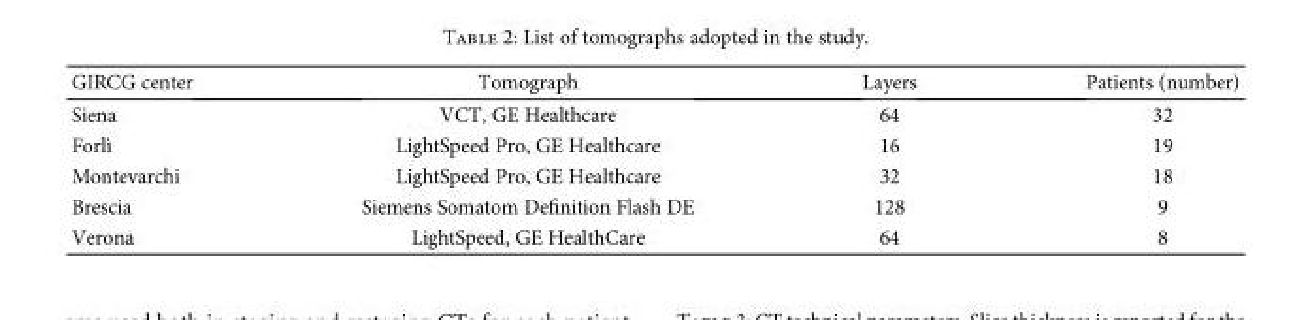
<table><thead><tr><td>GIRCG center</td><td>Tomograph</td><td>Layers</td><td>Patients (number)</td></tr></thead><tbody><tr><td>Siena</td><td>VCT, GE Healthcare</td><td>64</td><td>32</td></tr><tr><td>Forlì</td><td>LightSpeed Pro, GE Healthcare</td><td>16</td><td>19</td></tr><tr><td>Montevarchi</td><td>LightSpeed Pro, GE Healthcare</td><td>32</td><td>18</td></tr><tr><td>Brescia</td><td>Siemens Somatom Definition Flash DE</td><td>128</td><td>9</td></tr><tr><td>Verona</td><td>LightSpeed, GE HealthCare</td><td>64</td><td>8</td></tr></tbody></table>